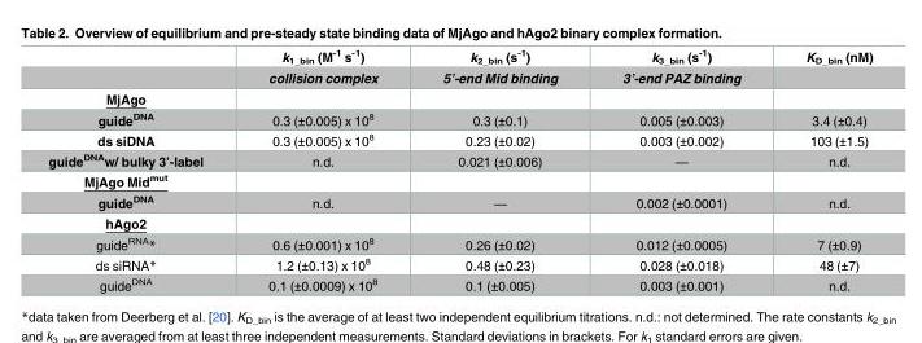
<table><thead><tr><td rowspan="2"></td><td rowspan="2">k<sub>1_bin</sub> (M<sup>-1</sup> s<sup>-1</sup>) collision complex</td><td rowspan="2">k<sub>2_bin</sub> (s<sup>-1</sup>) 5’-end Mid binding</td><td rowspan="2">k<sub>3_bin</sub> (s<sup>-1</sup>) 3’-end PAZ binding</td><td rowspan="2">K<sub>D_bin</sub> (nM)</td></tr><tr></tr></thead><tbody><tr><td colspan="5">MjAgo</td></tr><tr><td>guide<sup>DNA</sup></td><td>0.3 (±0.005) x 10<sup>8</sup></td><td>0.3 (±0.1)</td><td>0.005 (±0.003)</td><td>3.4 (±0.4)</td></tr><tr><td>ds siDNA</td><td>0.3 (±0.005) x 10<sup>8</sup></td><td>0.23 (±0.02)</td><td>0.003 (±0.002)</td><td>103 (±1.5)</td></tr><tr><td>guide<sup>DNA</sup>w/ bulky 3’-label</td><td>n.d.</td><td>0.021 (±0.006)</td><td>—</td><td>n.d.</td></tr><tr><td colspan="5">MjAgo Mid<sup>mut</sup></td></tr><tr><td>guide<sup>DNA</sup></td><td>n.d.</td><td>—</td><td>0.002 (±0.0001)</td><td>n.d.</td></tr><tr><td colspan="5">hAgo2</td></tr><tr><td>guide<sup>RNA</sup>*</td><td>0.6 (±0.001) x 10<sup>8</sup></td><td>0.26 (±0.02)</td><td>0.012 (±0.0005)</td><td>7 (±0.9)</td></tr><tr><td>ds siRNA*</td><td>1.2 (±0.13) x 10<sup>8</sup></td><td>0.48 (±0.23)</td><td>0.028 (±0.018)</td><td>48 (±7)</td></tr><tr><td>guide<sup>DNA</sup></td><td>0.1 (±0.0009) x 10<sup>8</sup></td><td>0.1 (±0.005)</td><td>0.003 (±0.001)</td><td>n.d.</td></tr></tbody></table>